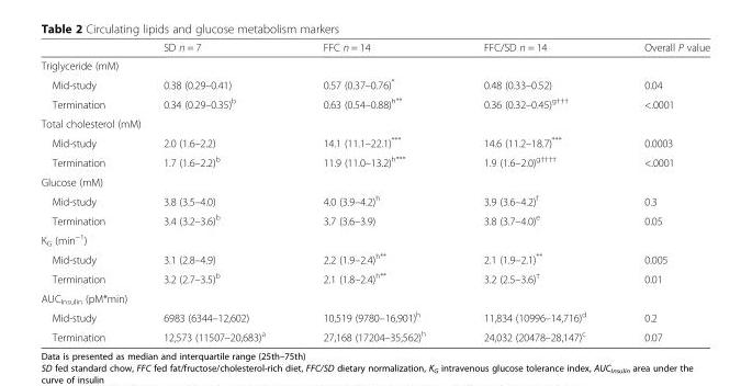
<table><thead><tr><td></td><td>SD n = 7</td><td>FFC n = 14</td><td>FFC/SD n = 14</td><td>Overall P value</td></tr></thead><tbody><tr><td colspan="5">Triglyceride (mM)</td></tr><tr><td>Mid-study</td><td>0.38 (0.29–0.41)</td><td>0.57 (0.37–0.76)*</td><td>0.48 (0.33–0.52)</td><td>0.04</td></tr><tr><td>Termination</td><td>0.34 (0.29–0.35)<sup>b</sup></td><td>0.63 (0.54–0.88)<sup>h**</sup></td><td>0.36 (0.32–0.45)<sup>g†††</sup></td><td>&lt;.0001</td></tr><tr><td colspan="5">Total cholesterol (mM)</td></tr><tr><td>Mid-study</td><td>2.0 (1.6–2.2)</td><td>14.1 (11.1–22.1)***</td><td>14.6 (11.2–18.7)***</td><td>0.0003</td></tr><tr><td>Termination</td><td>1.7 (1.6–2.2)<sup>b</sup></td><td>11.9 (11.0–13.2)<sup>h***</sup></td><td>1.9 (1.6–2.0)<sup>g††††</sup></td><td>&lt;.0001</td></tr><tr><td colspan="5">Glucose (mM)</td></tr><tr><td>Mid-study</td><td>3.8 (3.5–4.0)</td><td>4.0 (3.9–4.2)<sup>h</sup></td><td>3.9 (3.6–4.2)<sup>f</sup></td><td>0.3</td></tr><tr><td>Termination</td><td>3.4 (3.2–3.6)<sup>b</sup></td><td>3.7 (3.6–3.9)</td><td>3.8 (3.7–4.0)<sup>e</sup></td><td>0.05</td></tr><tr><td colspan="5">K<sub>G</sub> (min<sup>−1</sup>)</td></tr><tr><td>Mid-study</td><td>3.1 (2.8–4.9)</td><td>2.2 (1.9–2.4)<sup>h**</sup></td><td>2.1 (1.9–2.1)**</td><td>0.005</td></tr><tr><td>Termination</td><td>3.2 (2.7–3.5)<sup>b</sup></td><td>2.1 (1.8–2.4)<sup>h**</sup></td><td>3.2 (2.5–3.6)<sup>†</sup></td><td>0.01</td></tr><tr><td colspan="5">AUC<sub>Insulin</sub> (pM*min)</td></tr><tr><td>Mid-study</td><td>6983 (6344–12,602)</td><td>10,519 (9780–16,901)<sup>h</sup></td><td>11,834 (10996–14,716)<sup>d</sup></td><td>0.2</td></tr><tr><td>Termination</td><td>12,573 (11507–20,683)<sup>a</sup></td><td>27,168 (17204–35,562)<sup>h</sup></td><td>24,032 (20478–28,147)<sup>c</sup></td><td>0.07</td></tr></tbody></table>